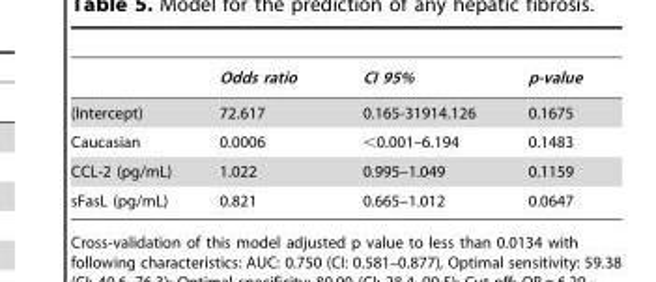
<table><thead><tr><td></td><td>Odds ratio</td><td>CI 95%</td><td>p-value</td></tr></thead><tbody><tr><td>(Intercept)</td><td>72.617</td><td>0.165-31914.126</td><td>0.1675</td></tr><tr><td>Caucasian</td><td>0.0006</td><td>&lt;0.001–6.194</td><td>0.1483</td></tr><tr><td>CCL-2 (pg/mL)</td><td>1.022</td><td>0.995–1.049</td><td>0.1159</td></tr><tr><td>sFasL (pg/mL)</td><td>0.821</td><td>0.665–1.012</td><td>0.0647</td></tr></tbody></table>